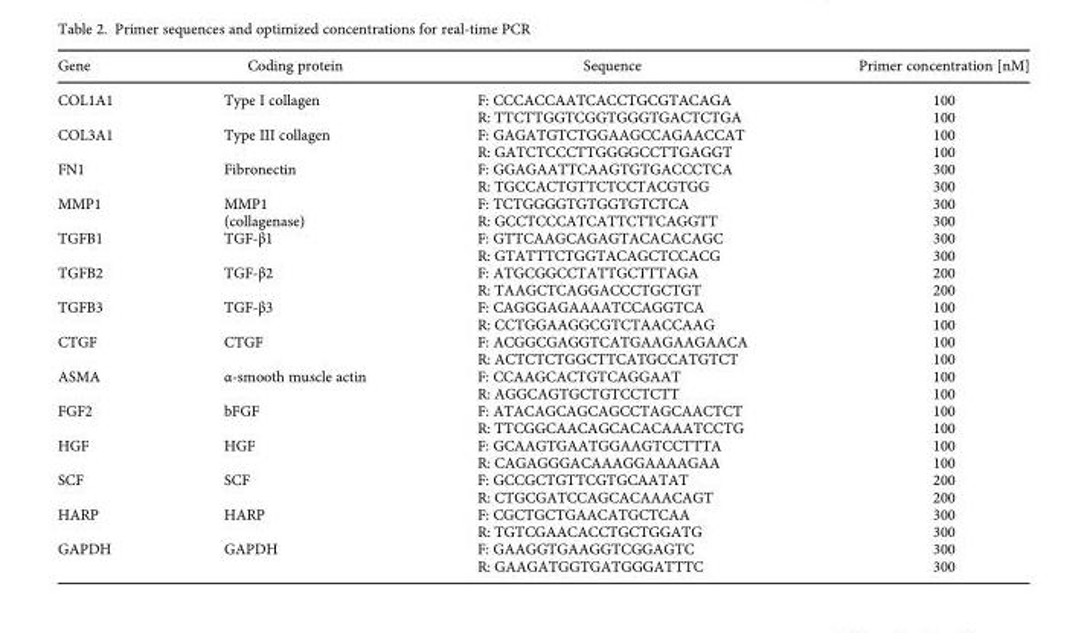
<table><thead><tr><td>Gene</td><td>Coding protein</td><td>Sequence</td><td>Primer concentration [nM]</td></tr></thead><tbody><tr><td>COL1A1</td><td>Type I collagen</td><td>F: CCCACCAATCACCTGCGTACAGA R: TTCTTGGTCGGTGGGTGACTCTGA</td><td>100 100</td></tr><tr><td>COL3A1</td><td>Type III collagen</td><td>F: GAGATGTCTGGAAGCCAGAACCAT R: GATCTCCCTTGGGGCCTTGAGGT</td><td>100 100</td></tr><tr><td>FN1</td><td>Fibronectin</td><td>F: GGAGAATTCAAGTGTGACCCTCA R: TGCCACTGTTCTCCTACGTGG</td><td>300 300</td></tr><tr><td>MMP1</td><td>MMP1 (collagenase)</td><td>F: TCTGGGGTGTGGTGTCTCA R: GCCTCCCATCATTCTTCAGGTT</td><td>300 300</td></tr><tr><td>TGFB1</td><td>TGF-β1</td><td>F: GTTCAAGCAGAGTACACACAGC R: GTATTTCTGGTACAGCTCCACG</td><td>300 300</td></tr><tr><td>TGFB2</td><td>TGF-β2</td><td>F: ATGCGGCCTATTGCTTTAGA R: TAAGCTCAGGACCCTGCTGT</td><td>200 200</td></tr><tr><td>TGFB3</td><td>TGF-β3</td><td>F: CAGGGAGAAAATCCAGGTCA R: CCTGGAAGGCGTCTAACCAAG</td><td>100 100</td></tr><tr><td>CTGF</td><td>CTGF</td><td>F: ACGGCGAGGTCATGAAGAAGAACA R: ACTCTCTGGCTTCATGCCATGTCT</td><td>100 100</td></tr><tr><td>ASMA</td><td>α-smooth muscle actin</td><td>F: CCAAGCACTGTCAGGAAT R: AGGCAGTGCTGTCCTCTT</td><td>100 100</td></tr><tr><td>FGF2</td><td>bFGF</td><td>F: ATACAGCAGCAGCCTAGCAACTCT R: TTCGGCAACAGCACACAAATCCTG</td><td>100 100</td></tr><tr><td>HGF</td><td>HGF</td><td>F: GCAAGTGAATGGAAGTCCTTTA R: CAGAGGGACAAAGGAAAAGAA</td><td>100 100</td></tr><tr><td>SCF</td><td>SCF</td><td>F: GCCGCTGTTCGTGCAATAT R: CTGCGATCCAGCACAAACAGT</td><td>200 200</td></tr><tr><td>HARP</td><td>HARP</td><td>F: CGCTGCTGAACATGCTCAA R: TGTCGAACACCTGCTGGATG</td><td>300 300</td></tr><tr><td>GAPDH</td><td>GAPDH</td><td>F: GAAGGTGAAGGTCGGAGTC R: GAAGATGGTGATGGGATTTC</td><td>300 300</td></tr></tbody></table>